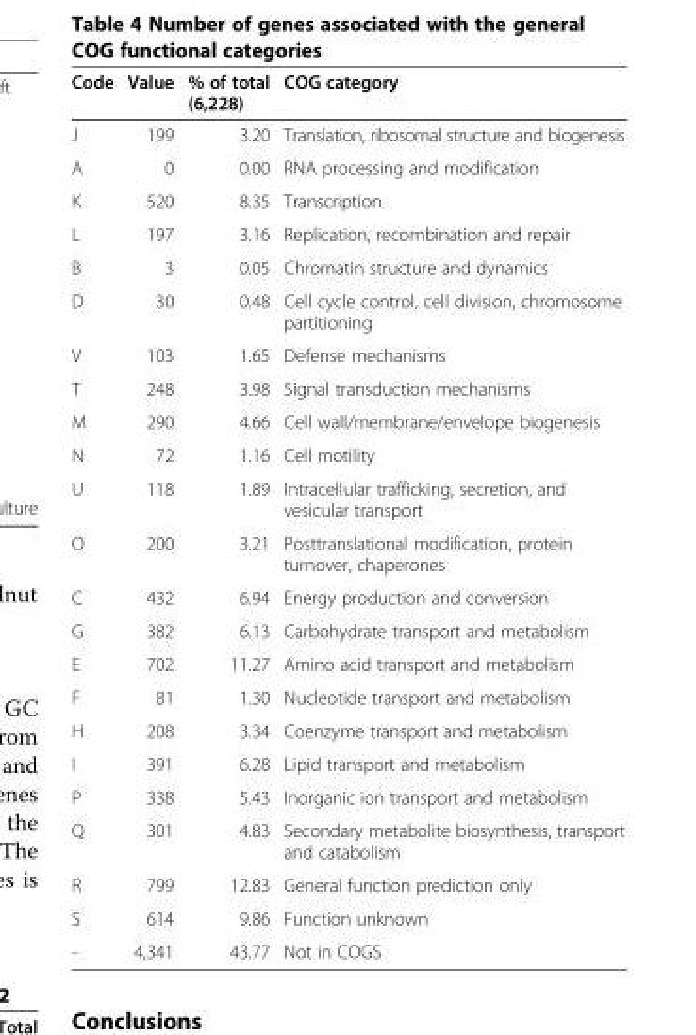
<table><thead><tr><td>Code</td><td>Value</td><td>% of total (6,228)</td><td>COG category</td></tr></thead><tbody><tr><td>J</td><td>199</td><td>3.20</td><td>Translation, ribosomal structure and biogenesis</td></tr><tr><td>A</td><td>0</td><td>0.00</td><td>RNA processing and modification</td></tr><tr><td>K</td><td>520</td><td>8.35</td><td>Transcription</td></tr><tr><td>L</td><td>197</td><td>3.16</td><td>Replication, recombination and repair</td></tr><tr><td>B</td><td>3</td><td>0.05</td><td>Chromatin structure and dynamics</td></tr><tr><td>D</td><td>30</td><td>0.48</td><td>Cell cycle control, cell division, chromosome partitioning</td></tr><tr><td>V</td><td>103</td><td>1.65</td><td>Defense mechanisms</td></tr><tr><td>T</td><td>248</td><td>3.98</td><td>Signal transduction mechanisms</td></tr><tr><td>M</td><td>290</td><td>4.66</td><td>Cell wall/membrane/envelope biogenesis</td></tr><tr><td>N</td><td>72</td><td>1.16</td><td>Cell motility</td></tr><tr><td>U</td><td>118</td><td>1.89</td><td>Intracellular trafficking, secretion, and vesicular transport</td></tr><tr><td>O</td><td>200</td><td>3.21</td><td>Posttranslational modification, protein turnover, chaperones</td></tr><tr><td>C</td><td>432</td><td>6.94</td><td>Energy production and conversion</td></tr><tr><td>G</td><td>382</td><td>6.13</td><td>Carbohydrate transport and metabolism</td></tr><tr><td>E</td><td>702</td><td>11.27</td><td>Amino acid transport and metabolism</td></tr><tr><td>F</td><td>81</td><td>1.30</td><td>Nucleotide transport and metabolism</td></tr><tr><td>H</td><td>208</td><td>3.34</td><td>Coenzyme transport and metabolism</td></tr><tr><td>I</td><td>391</td><td>6.28</td><td>Lipid transport and metabolism</td></tr><tr><td>P</td><td>338</td><td>5.43</td><td>Inorganic ion transport and metabolism</td></tr><tr><td>Q</td><td>301</td><td>4.83</td><td>Secondary metabolite biosynthesis, transport and catabolism</td></tr><tr><td>R</td><td>799</td><td>12.83</td><td>General function prediction only</td></tr><tr><td>S</td><td>614</td><td>9.86</td><td>Function unknown</td></tr><tr><td>-</td><td>4,341</td><td>43.77</td><td>Not in COGS</td></tr></tbody></table>